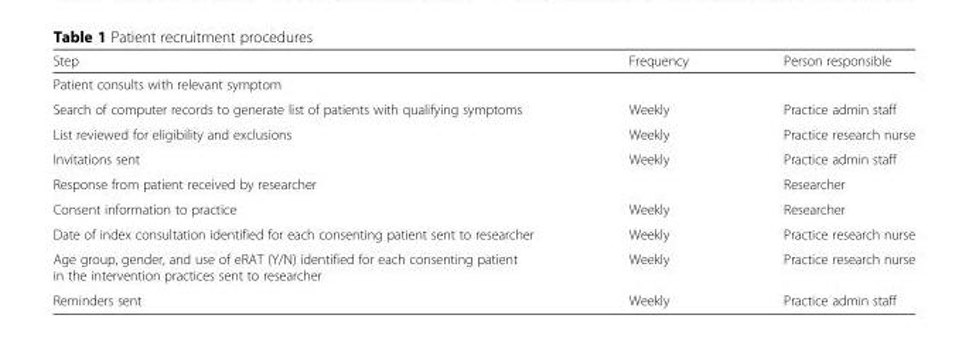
<table><thead><tr><td>Step</td><td>Frequency</td><td>Person responsible</td></tr></thead><tbody><tr><td colspan="3">Patient consults with relevant symptom</td></tr><tr><td>Search of computer records to generate list of patients with qualifying symptoms</td><td>Weekly</td><td>Practice admin staff</td></tr><tr><td>List reviewed for eligibility and exclusions</td><td>Weekly</td><td>Practice research nurse</td></tr><tr><td>Invitations sent</td><td>Weekly</td><td>Practice admin staff</td></tr><tr><td>Response from patient received by researcher</td><td></td><td>Researcher</td></tr><tr><td>Consent information to practice</td><td>Weekly</td><td>Researcher</td></tr><tr><td>Date of index consultation identified for each consenting patient sent to researcher</td><td>Weekly</td><td>Practice research nurse</td></tr><tr><td>Age group, gender, and use of eRAT (Y/N) identified for each consenting patient in the intervention practices sent to researcher</td><td>Weekly</td><td>Practice research nurse</td></tr><tr><td>Reminders sent</td><td>Weekly</td><td>Practice admin staff</td></tr></tbody></table>